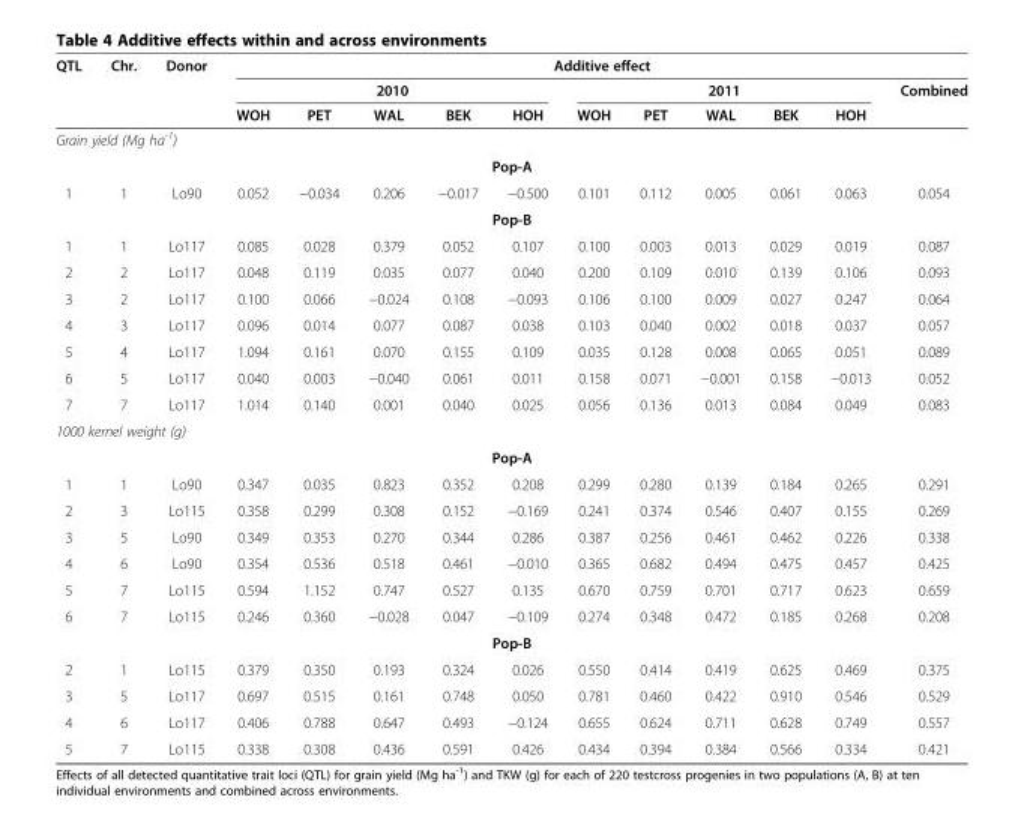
<table><thead><tr><td rowspan="3">QTL</td><td rowspan="3">Chr.</td><td rowspan="3">Donor</td><td colspan="11">Additive effect</td></tr><tr><td colspan="5">2010</td><td colspan="5">2011</td><td rowspan="2">Combined</td></tr><tr><td>WOH</td><td>PET</td><td>WAL</td><td>BEK</td><td>HOH</td><td>WOH</td><td>PET</td><td>WAL</td><td>BEK</td><td>HOH</td></tr></thead><tbody><tr><td colspan="14">Grain yield (Mg ha<sup>-1</sup>)</td></tr><tr><td colspan="14">Pop-A</td></tr><tr><td>1</td><td>1</td><td>Lo90</td><td>0.052</td><td>−0.034</td><td>0.206</td><td>−0.017</td><td>−0.500</td><td>0.101</td><td>0.112</td><td>0.005</td><td>0.061</td><td>0.063</td><td>0.054</td></tr><tr><td colspan="14">Pop-B</td></tr><tr><td>1</td><td>1</td><td>Lo117</td><td>0.085</td><td>0.028</td><td>0.379</td><td>0.052</td><td>0.107</td><td>0.100</td><td>0.003</td><td>0.013</td><td>0.029</td><td>0.019</td><td>0.087</td></tr><tr><td>2</td><td>2</td><td>Lo117</td><td>0.048</td><td>0.119</td><td>0.035</td><td>0.077</td><td>0.040</td><td>0.200</td><td>0.109</td><td>0.010</td><td>0.139</td><td>0.106</td><td>0.093</td></tr><tr><td>3</td><td>2</td><td>Lo117</td><td>0.100</td><td>0.066</td><td>−0.024</td><td>0.108</td><td>−0.093</td><td>0.106</td><td>0.100</td><td>0.009</td><td>0.027</td><td>0.247</td><td>0.064</td></tr><tr><td>4</td><td>3</td><td>Lo117</td><td>0.096</td><td>0.014</td><td>0.077</td><td>0.087</td><td>0.038</td><td>0.103</td><td>0.040</td><td>0.002</td><td>0.018</td><td>0.037</td><td>0.057</td></tr><tr><td>5</td><td>4</td><td>Lo117</td><td>1.094</td><td>0.161</td><td>0.070</td><td>0.155</td><td>0.109</td><td>0.035</td><td>0.128</td><td>0.008</td><td>0.065</td><td>0.051</td><td>0.089</td></tr><tr><td>6</td><td>5</td><td>Lo117</td><td>0.040</td><td>0.003</td><td>−0.040</td><td>0.061</td><td>0.011</td><td>0.158</td><td>0.071</td><td>−0.001</td><td>0.158</td><td>−0.013</td><td>0.052</td></tr><tr><td>7</td><td>7</td><td>Lo117</td><td>1.014</td><td>0.140</td><td>0.001</td><td>0.040</td><td>0.025</td><td>0.056</td><td>0.136</td><td>0.013</td><td>0.084</td><td>0.049</td><td>0.083</td></tr><tr><td colspan="14">1000 kernel weight (g)</td></tr><tr><td colspan="14">Pop-A</td></tr><tr><td>1</td><td>1</td><td>Lo90</td><td>0.347</td><td>0.035</td><td>0.823</td><td>0.352</td><td>0.208</td><td>0.299</td><td>0.280</td><td>0.139</td><td>0.184</td><td>0.265</td><td>0.291</td></tr><tr><td>2</td><td>3</td><td>Lo115</td><td>0.358</td><td>0.299</td><td>0.308</td><td>0.152</td><td>−0.169</td><td>0.241</td><td>0.374</td><td>0.546</td><td>0.407</td><td>0.155</td><td>0.269</td></tr><tr><td>3</td><td>5</td><td>Lo90</td><td>0.349</td><td>0.353</td><td>0.270</td><td>0.344</td><td>0.286</td><td>0.387</td><td>0.256</td><td>0.461</td><td>0.462</td><td>0.226</td><td>0.338</td></tr><tr><td>4</td><td>6</td><td>Lo90</td><td>0.354</td><td>0.536</td><td>0.518</td><td>0.461</td><td>−0.010</td><td>0.365</td><td>0.682</td><td>0.494</td><td>0.475</td><td>0.457</td><td>0.425</td></tr><tr><td>5</td><td>7</td><td>Lo115</td><td>0.594</td><td>1.152</td><td>0.747</td><td>0.527</td><td>0.135</td><td>0.670</td><td>0.759</td><td>0.701</td><td>0.717</td><td>0.623</td><td>0.659</td></tr><tr><td>6</td><td>7</td><td>Lo115</td><td>0.246</td><td>0.360</td><td>−0.028</td><td>0.047</td><td>−0.109</td><td>0.274</td><td>0.348</td><td>0.472</td><td>0.185</td><td>0.268</td><td>0.208</td></tr><tr><td colspan="14">Pop-B</td></tr><tr><td>2</td><td>1</td><td>Lo115</td><td>0.379</td><td>0.350</td><td>0.193</td><td>0.324</td><td>0.026</td><td>0.550</td><td>0.414</td><td>0.419</td><td>0.625</td><td>0.469</td><td>0.375</td></tr><tr><td>3</td><td>5</td><td>Lo117</td><td>0.697</td><td>0.515</td><td>0.161</td><td>0.748</td><td>0.050</td><td>0.781</td><td>0.460</td><td>0.422</td><td>0.910</td><td>0.546</td><td>0.529</td></tr><tr><td>4</td><td>6</td><td>Lo117</td><td>0.406</td><td>0.788</td><td>0.647</td><td>0.493</td><td>−0.124</td><td>0.655</td><td>0.624</td><td>0.711</td><td>0.628</td><td>0.749</td><td>0.557</td></tr><tr><td>5</td><td>7</td><td>Lo115</td><td>0.338</td><td>0.308</td><td>0.436</td><td>0.591</td><td>0.426</td><td>0.434</td><td>0.394</td><td>0.384</td><td>0.566</td><td>0.334</td><td>0.421</td></tr></tbody></table>